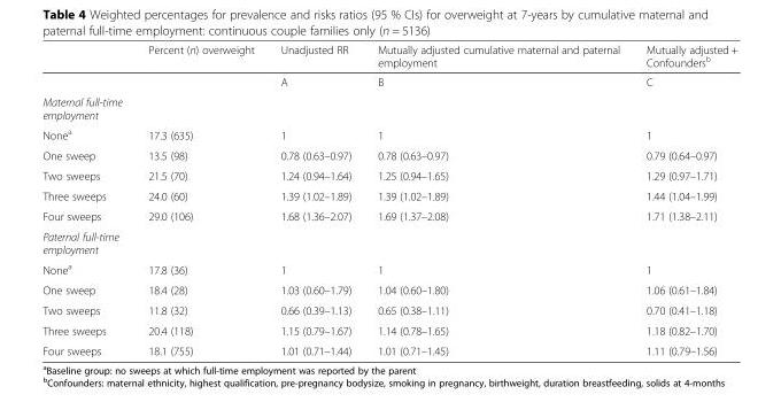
<table><thead><tr><td></td><td>Percent (n) overweight</td><td>Unadjusted RR</td><td>Mutually adjusted cumulative maternal and paternal employment</td><td>Mutually adjusted + Confounders<sup>b</sup></td></tr></thead><tbody><tr><td></td><td></td><td>A</td><td>B</td><td>C</td></tr><tr><td colspan="5">Maternal full-time employment</td></tr><tr><td>None<sup>a</sup></td><td>17.3 (635)</td><td>1</td><td>1</td><td>1</td></tr><tr><td>One sweep</td><td>13.5 (98)</td><td>0.78 (0.63–0.97)</td><td>0.78 (0.63–0.97)</td><td>0.79 (0.64–0.97)</td></tr><tr><td>Two sweeps</td><td>21.5 (70)</td><td>1.24 (0.94–1.64)</td><td>1.25 (0.94–1.65)</td><td>1.29 (0.97–1.71)</td></tr><tr><td>Three sweeps</td><td>24.0 (60)</td><td>1.39 (1.02–1.89)</td><td>1.39 (1.02–1.89)</td><td>1.44 (1.04–1.99)</td></tr><tr><td>Four sweeps</td><td>29.0 (106)</td><td>1.68 (1.36–2.07)</td><td>1.69 (1.37–2.08)</td><td>1.71 (1.38–2.11)</td></tr><tr><td colspan="5">Paternal full-time employment</td></tr><tr><td>None<sup>a</sup></td><td>17.8 (36)</td><td>1</td><td>1</td><td>1</td></tr><tr><td>One sweep</td><td>18.4 (28)</td><td>1.03 (0.60–1.79)</td><td>1.04 (0.60–1.80)</td><td>1.06 (0.61–1.84)</td></tr><tr><td>Two sweeps</td><td>11.8 (32)</td><td>0.66 (0.39–1.13)</td><td>0.65 (0.38–1.11)</td><td>0.70 (0.41–1.18)</td></tr><tr><td>Three sweeps</td><td>20.4 (118)</td><td>1.15 (0.79–1.67)</td><td>1.14 (0.78–1.65)</td><td>1.18 (0.82–1.70)</td></tr><tr><td>Four sweeps</td><td>18.1 (755)</td><td>1.01 (0.71–1.44)</td><td>1.01 (0.71–1.45)</td><td>1.11 (0.79–1.56)</td></tr></tbody></table>